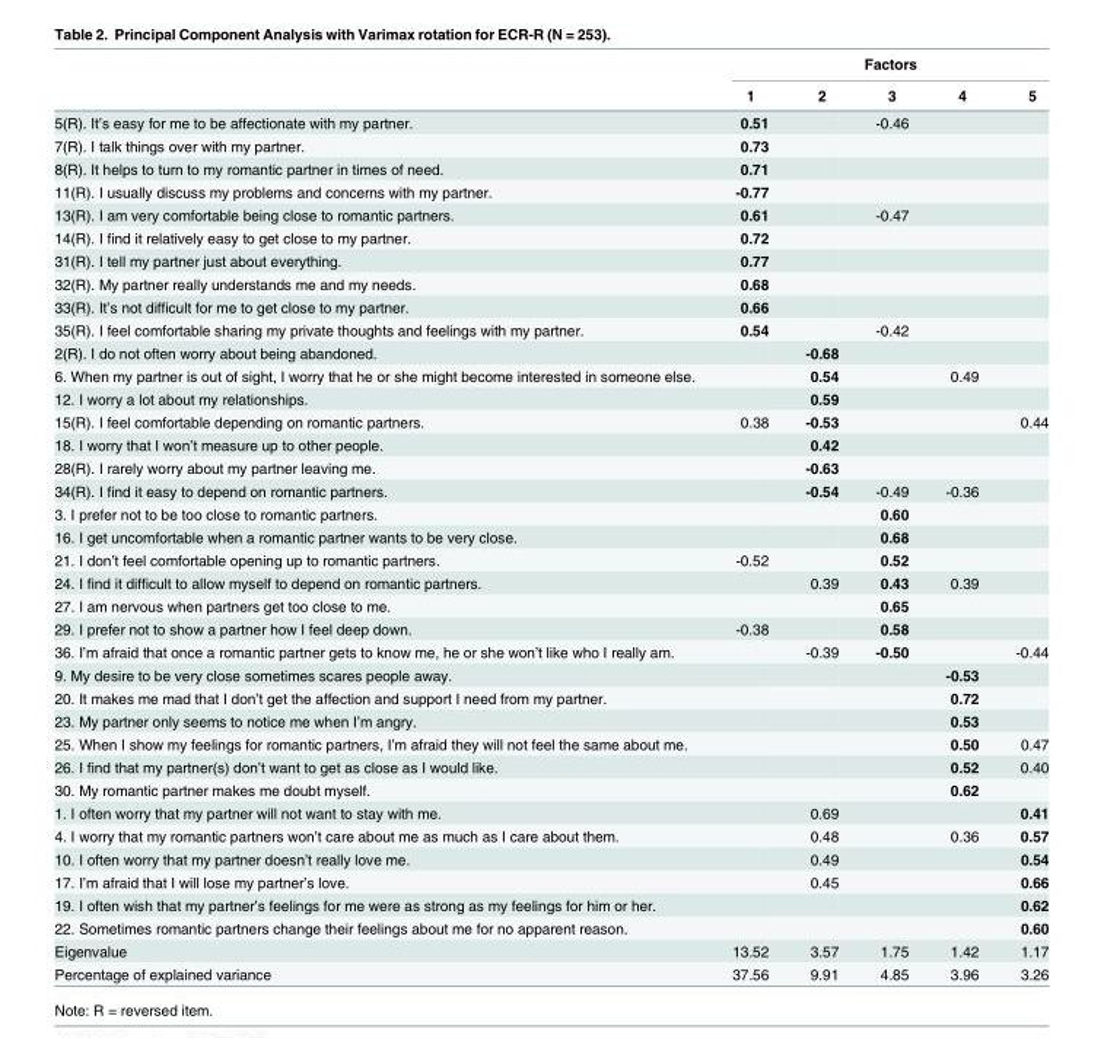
<table><thead><tr><td rowspan="2"></td><td colspan="5">Factors</td></tr><tr><td>1</td><td>2</td><td>3</td><td>4</td><td>5</td></tr></thead><tbody><tr><td>5(R). It’s easy for me to be affectionate with my partner.</td><td>0.51</td><td></td><td>-0.46</td><td></td><td></td></tr><tr><td>7(R). I talk things over with my partner.</td><td>0.73</td><td></td><td></td><td></td><td></td></tr><tr><td>8(R). It helps to turn to my romantic partner in times of need.</td><td>0.71</td><td></td><td></td><td></td><td></td></tr><tr><td>11(R). I usually discuss my problems and concerns with my partner.</td><td>-0.77</td><td></td><td></td><td></td><td></td></tr><tr><td>13(R). I am very comfortable being close to romantic partners.</td><td>0.61</td><td></td><td>-0.47</td><td></td><td></td></tr><tr><td>14(R). I find it relatively easy to get close to my partner.</td><td>0.72</td><td></td><td></td><td></td><td></td></tr><tr><td>31(R). I tell my partner just about everything.</td><td>0.77</td><td></td><td></td><td></td><td></td></tr><tr><td>32(R). My partner really understands me and my needs.</td><td>0.68</td><td></td><td></td><td></td><td></td></tr><tr><td>33(R). It’s not difficult for me to get close to my partner.</td><td>0.66</td><td></td><td></td><td></td><td></td></tr><tr><td>35(R). I feel comfortable sharing my private thoughts and feelings with my partner.</td><td>0.54</td><td></td><td>-0.42</td><td></td><td></td></tr><tr><td>2(R). I do not often worry about being abandoned.</td><td></td><td>-0.68</td><td></td><td></td><td></td></tr><tr><td>6. When my partner is out of sight, I worry that he or she might become interested in someone else.</td><td></td><td>0.54</td><td></td><td>0.49</td><td></td></tr><tr><td>12. I worry a lot about my relationships.</td><td></td><td>0.59</td><td></td><td></td><td></td></tr><tr><td>15(R). I feel comfortable depending on romantic partners.</td><td>0.38</td><td>-0.53</td><td></td><td></td><td>0.44</td></tr><tr><td>18. I worry that I won’t measure up to other people.</td><td></td><td>0.42</td><td></td><td></td><td></td></tr><tr><td>28(R). I rarely worry about my partner leaving me.</td><td></td><td>-0.63</td><td></td><td></td><td></td></tr><tr><td>34(R). I find it easy to depend on romantic partners.</td><td></td><td>-0.54</td><td>-0.49</td><td>-0.36</td><td></td></tr><tr><td>3. I prefer not to be too close to romantic partners.</td><td></td><td></td><td>0.60</td><td></td><td></td></tr><tr><td>16. I get uncomfortable when a romantic partner wants to be very close.</td><td></td><td></td><td>0.68</td><td></td><td></td></tr><tr><td>21. I don’t feel comfortable opening up to romantic partners.</td><td>-0.52</td><td></td><td>0.52</td><td></td><td></td></tr><tr><td>24. I find it difficult to allow myself to depend on romantic partners.</td><td></td><td>0.39</td><td>0.43</td><td>0.39</td><td></td></tr><tr><td>27. I am nervous when partners get too close to me.</td><td></td><td></td><td>0.65</td><td></td><td></td></tr><tr><td>29. I prefer not to show a partner how I feel deep down.</td><td>-0.38</td><td></td><td>0.58</td><td></td><td></td></tr><tr><td>36. I’m afraid that once a romantic partner gets to know me, he or she won’t like who I really am.</td><td></td><td>-0.39</td><td>-0.50</td><td></td><td>-0.44</td></tr><tr><td>9. My desire to be very close sometimes scares people away.</td><td></td><td></td><td></td><td>-0.53</td><td></td></tr><tr><td>20. It makes me mad that I don’t get the affection and support I need from my partner.</td><td></td><td></td><td></td><td>0.72</td><td></td></tr><tr><td>23. My partner only seems to notice me when I’m angry.</td><td></td><td></td><td></td><td>0.53</td><td></td></tr><tr><td>25. When I show my feelings for romantic partners, I’m afraid they will not feel the same about me.</td><td></td><td></td><td></td><td>0.50</td><td>0.47</td></tr><tr><td>26. I find that my partner(s) don’t want to get as close as I would like.</td><td></td><td></td><td></td><td>0.52</td><td>0.40</td></tr><tr><td>30. My romantic partner makes me doubt myself.</td><td></td><td></td><td></td><td>0.62</td><td></td></tr><tr><td>1. I often worry that my partner will not want to stay with me.</td><td></td><td>0.69</td><td></td><td></td><td>0.41</td></tr><tr><td>4. I worry that my romantic partners won’t care about me as much as I care about them.</td><td></td><td>0.48</td><td></td><td>0.36</td><td>0.57</td></tr><tr><td>10. I often worry that my partner doesn’t really love me.</td><td></td><td>0.49</td><td></td><td></td><td>0.54</td></tr><tr><td>17. I’m afraid that I will lose my partner’s love.</td><td></td><td>0.45</td><td></td><td></td><td>0.66</td></tr><tr><td>19. I often wish that my partner’s feelings for me were as strong as my feelings for him or her.</td><td></td><td></td><td></td><td></td><td>0.62</td></tr><tr><td>22. Sometimes romantic partners change their feelings about me for no apparent reason.</td><td></td><td></td><td></td><td></td><td>0.60</td></tr><tr><td>Eigenvalue</td><td>13.52</td><td>3.57</td><td>1.75</td><td>1.42</td><td>1.17</td></tr><tr><td>Percentage of explained variance</td><td>37.56</td><td>9.91</td><td>4.85</td><td>3.96</td><td>3.26</td></tr></tbody></table>